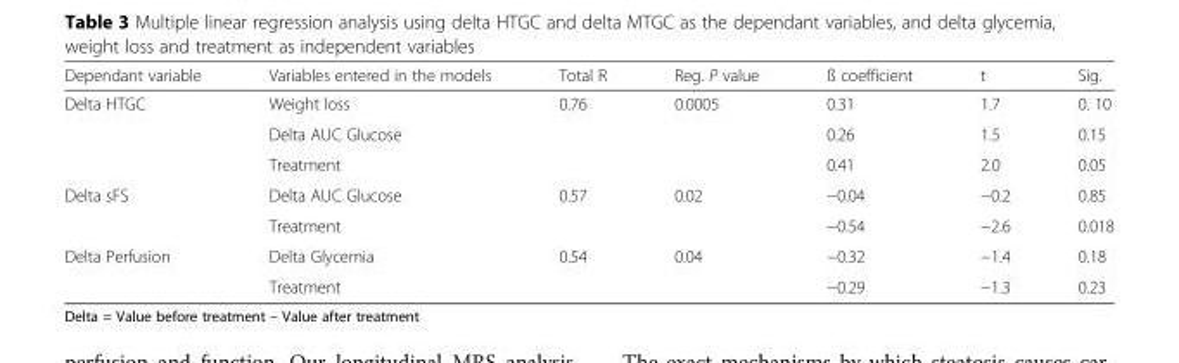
<table><thead><tr><td>Dependant variable</td><td>Variables entered in the models</td><td>Total R</td><td>Reg. P value</td><td>ß coefficient</td><td>t</td><td>Sig.</td></tr></thead><tbody><tr><td rowspan="3">Delta HTGC</td><td>Weight loss</td><td>0.76</td><td>0.0005</td><td>0.31</td><td>1.7</td><td>0. 10</td></tr><tr><td>Delta AUC Glucose</td><td></td><td></td><td>0.26</td><td>1.5</td><td>0.15</td></tr><tr><td>Treatment</td><td></td><td></td><td>0.41</td><td>2.0</td><td>0.05</td></tr><tr><td rowspan="2">Delta sFS</td><td>Delta AUC Glucose</td><td>0.57</td><td>0.02</td><td>−0.04</td><td>−0.2</td><td>0.85</td></tr><tr><td>Treatment</td><td></td><td></td><td>−0.54</td><td>−2.6</td><td>0.018</td></tr><tr><td rowspan="2">Delta Perfusion</td><td>Delta Glycemia</td><td>0.54</td><td>0.04</td><td>−0.32</td><td>−1.4</td><td>0.18</td></tr><tr><td>Treatment</td><td></td><td></td><td>−0.29</td><td>−1.3</td><td>0.23</td></tr></tbody></table>